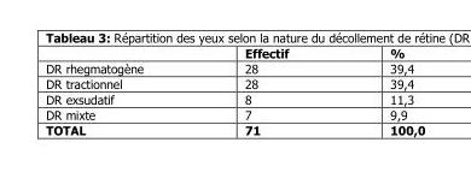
<table><thead><tr><td></td><td>Effectif</td><td>%</td></tr></thead><tbody><tr><td>DR rhegmatogène</td><td>28</td><td>39,4</td></tr><tr><td>DR tractionnel</td><td>28</td><td>39,4</td></tr><tr><td>DR exsudatif</td><td>8</td><td>11,3</td></tr><tr><td>DR mixte</td><td>7</td><td>9,9</td></tr><tr><td>TOTAL</td><td>71</td><td>100,0</td></tr></tbody></table>